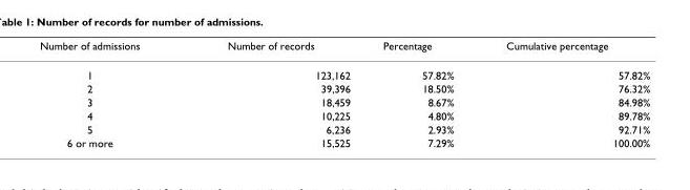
<table><thead><tr><td>Number of admissions</td><td>Number of records</td><td>Percentage</td><td>Cumulative percentage</td></tr></thead><tbody><tr><td>1</td><td>123,162</td><td>57.82%</td><td>57.82%</td></tr><tr><td>2</td><td>39,396</td><td>18.50%</td><td>76.32%</td></tr><tr><td>3</td><td>18,459</td><td>8.67%</td><td>84.98%</td></tr><tr><td>4</td><td>10,225</td><td>4.80%</td><td>89.78%</td></tr><tr><td>5</td><td>6,236</td><td>2.93%</td><td>92.71%</td></tr><tr><td>6 or more</td><td>15,525</td><td>7.29%</td><td>100.00%</td></tr></tbody></table>